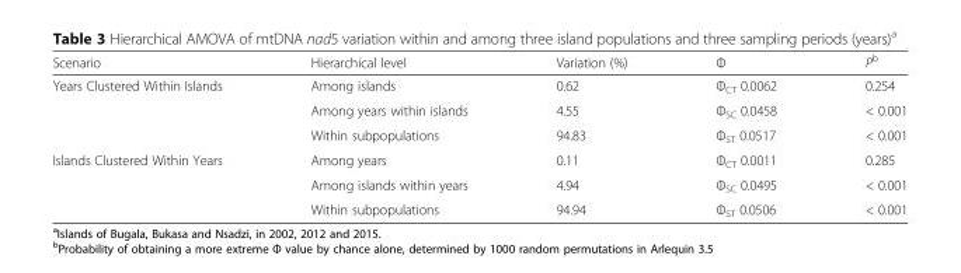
<table><thead><tr><td>Scenario</td><td>Hierarchical level</td><td>Variation (%)</td><td>Φ</td><td>P<sup>b</sup></td></tr></thead><tbody><tr><td rowspan="3">Years Clustered Within Islands</td><td>Among islands</td><td>0.62</td><td>Φ<sub>CT</sub> 0.0062</td><td>0.254</td></tr><tr><td>Among years within islands</td><td>4.55</td><td>Φ<sub>SC</sub> 0.0458</td><td>&lt; 0.001</td></tr><tr><td>Within subpopulations</td><td>94.83</td><td>Φ<sub>ST</sub> 0.0517</td><td>&lt; 0.001</td></tr><tr><td rowspan="3">Islands Clustered Within Years</td><td>Among years</td><td>0.11</td><td>Φ<sub>CT</sub> 0.0011</td><td>0.285</td></tr><tr><td>Among islands within years</td><td>4.94</td><td>Φ<sub>SC</sub> 0.0495</td><td>&lt; 0.001</td></tr><tr><td>Within subpopulations</td><td>94.94</td><td>Φ<sub>ST</sub> 0.0506</td><td>&lt; 0.001</td></tr></tbody></table>